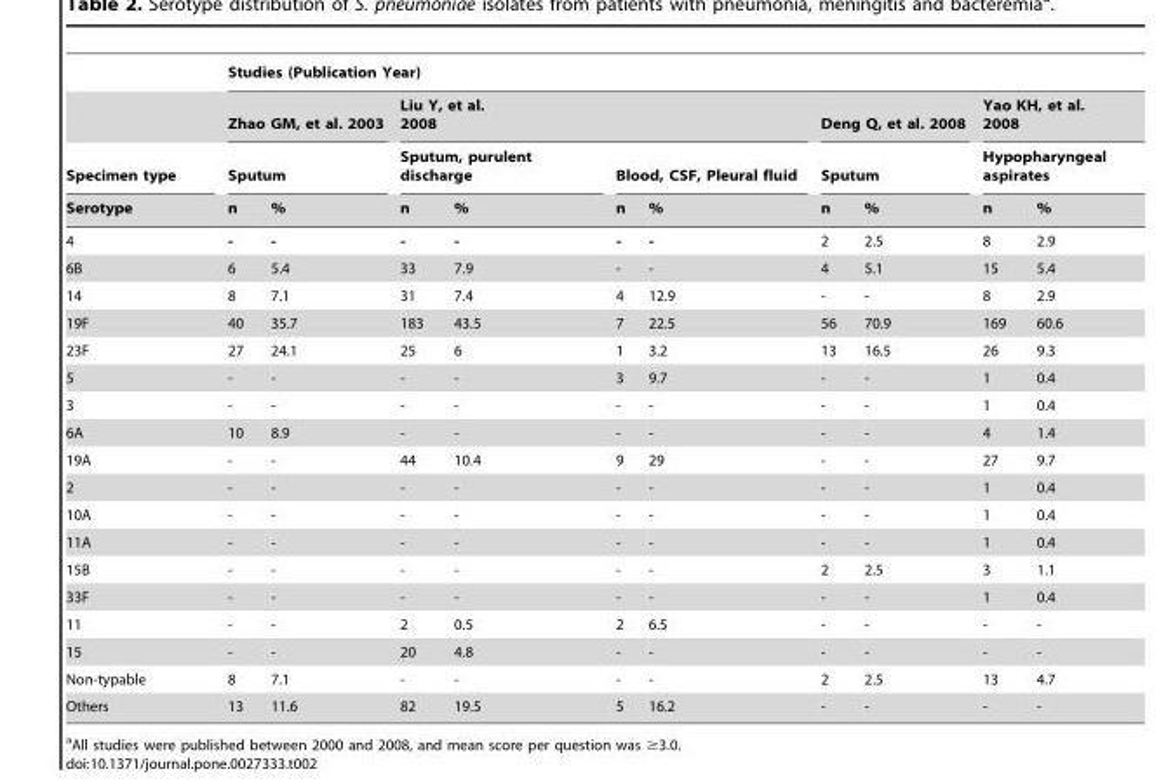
<table><thead><tr><td rowspan="4">Specimen type Serotype</td><td colspan="10">Studies (Publication Year)</td></tr><tr><td rowspan="2" colspan="2">Zhao GM, et al. 2003 Sputum</td><td colspan="4">Liu Y, et al. 2008</td><td rowspan="2" colspan="2">Deng Q, et al. 2008 Sputum</td><td rowspan="2" colspan="2">Yao KH, et al. 2008 Hypopharyngeal aspirates</td></tr><tr><td colspan="2">Sputum, purulent discharge</td><td colspan="2">Blood, CSF, Pleural fluid</td></tr><tr><td>n</td><td>%</td><td>n</td><td>%</td><td>n</td><td>%</td><td>n</td><td>%</td><td>n</td><td>%</td></tr></thead><tbody><tr><td>4</td><td>-</td><td>-</td><td>-</td><td>-</td><td>-</td><td>-</td><td>2</td><td>2.5</td><td>8</td><td>2.9</td></tr><tr><td>6B</td><td>6</td><td>5.4</td><td>33</td><td>7.9</td><td>-</td><td>-</td><td>4</td><td>5.1</td><td>15</td><td>5.4</td></tr><tr><td>14</td><td>8</td><td>7.1</td><td>31</td><td>7.4</td><td>4</td><td>12.9</td><td>-</td><td>-</td><td>8</td><td>2.9</td></tr><tr><td>19F</td><td>40</td><td>35.7</td><td>183</td><td>43.5</td><td>7</td><td>22.5</td><td>56</td><td>70.9</td><td>169</td><td>60.6</td></tr><tr><td>23F</td><td>27</td><td>24.1</td><td>25</td><td>6</td><td>1</td><td>3.2</td><td>13</td><td>16.5</td><td>26</td><td>9.3</td></tr><tr><td>5</td><td>-</td><td>-</td><td>-</td><td>-</td><td>3</td><td>9.7</td><td>-</td><td>-</td><td>1</td><td>0.4</td></tr><tr><td>3</td><td>-</td><td>-</td><td>-</td><td>-</td><td>-</td><td>-</td><td>-</td><td>-</td><td>1</td><td>0.4</td></tr><tr><td>6A</td><td>10</td><td>8.9</td><td>-</td><td>-</td><td>-</td><td>-</td><td>-</td><td>-</td><td>4</td><td>1.4</td></tr><tr><td>19A</td><td>-</td><td>-</td><td>44</td><td>10.4</td><td>9</td><td>29</td><td>-</td><td>-</td><td>27</td><td>9.7</td></tr><tr><td>2</td><td>-</td><td>-</td><td>-</td><td>-</td><td>-</td><td>-</td><td>-</td><td>-</td><td>1</td><td>0.4</td></tr><tr><td>10A</td><td>-</td><td>-</td><td>-</td><td>-</td><td>-</td><td>-</td><td>-</td><td>-</td><td>1</td><td>0.4</td></tr><tr><td>11A</td><td>-</td><td>-</td><td>-</td><td>-</td><td>-</td><td>-</td><td>-</td><td>-</td><td>1</td><td>0.4</td></tr><tr><td>15B</td><td>-</td><td>-</td><td>-</td><td>-</td><td>-</td><td>-</td><td>2</td><td>2.5</td><td>3</td><td>1.1</td></tr><tr><td>33F</td><td>-</td><td>-</td><td>-</td><td>-</td><td>-</td><td>-</td><td>-</td><td>-</td><td>1</td><td>0.4</td></tr><tr><td>11</td><td>-</td><td>-</td><td>2</td><td>0.5</td><td>2</td><td>6.5</td><td>-</td><td>-</td><td>-</td><td>-</td></tr><tr><td>15</td><td>-</td><td>-</td><td>20</td><td>4.8</td><td>-</td><td>-</td><td>-</td><td>-</td><td>-</td><td>-</td></tr><tr><td>Non-typable</td><td>8</td><td>7.1</td><td>-</td><td>-</td><td>-</td><td>-</td><td>2</td><td>2.5</td><td>13</td><td>4.7</td></tr><tr><td>Others</td><td>13</td><td>11.6</td><td>82</td><td>19.5</td><td>5</td><td>16.2</td><td>-</td><td>-</td><td>-</td><td>-</td></tr></tbody></table>